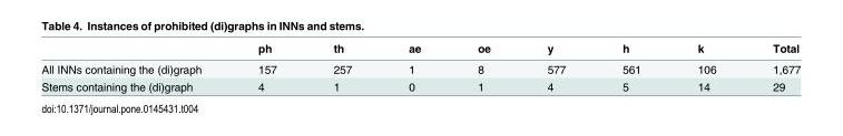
<table><thead><tr><td></td><td>ph</td><td>th</td><td>ae</td><td>oe</td><td>y</td><td>h</td><td>k</td><td>Total</td></tr></thead><tbody><tr><td>All INNs containing the (di)graph</td><td>157</td><td>257</td><td>1</td><td>8</td><td>577</td><td>561</td><td>106</td><td>1,677</td></tr><tr><td>Stems containing the (di)graph</td><td>4</td><td>1</td><td>0</td><td>1</td><td>4</td><td>5</td><td>14</td><td>29</td></tr></tbody></table>